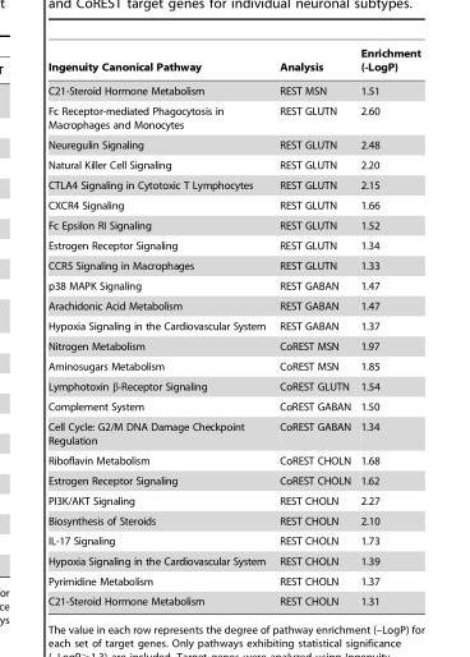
<table><thead><tr><td>Ingenuity Canonical Pathway</td><td>Analysis</td><td>Enrichment (-LogP)</td></tr></thead><tbody><tr><td>C21-Steroid Hormone Metabolism</td><td>REST MSN</td><td>1.51</td></tr><tr><td>Fc Receptor-mediated Phagocytosis in Macrophages and Monocytes</td><td>REST GLUTN</td><td>2.60</td></tr><tr><td>Neuregulin Signaling</td><td>REST GLUTN</td><td>2.48</td></tr><tr><td>Natural Killer Cell Signaling</td><td>REST GLUTN</td><td>2.20</td></tr><tr><td>CTLA4 Signaling in Cytotoxic T Lymphocytes</td><td>REST GLUTN</td><td>2.15</td></tr><tr><td>CXCR4 Signaling</td><td>REST GLUTN</td><td>1.66</td></tr><tr><td>Fc Epsilon RI Signaling</td><td>REST GLUTN</td><td>1.52</td></tr><tr><td>Estrogen Receptor Signaling</td><td>REST GLUTN</td><td>1.34</td></tr><tr><td>CCR5 Signaling in Macrophages</td><td>REST GLUTN</td><td>1.33</td></tr><tr><td>p38 MAPK Signaling</td><td>REST GABAN</td><td>1.47</td></tr><tr><td>Arachidonic Acid Metabolism</td><td>REST GABAN</td><td>1.47</td></tr><tr><td>Hypoxia Signaling in the Cardiovascular System</td><td>REST GABAN</td><td>1.37</td></tr><tr><td>Nitrogen Metabolism</td><td>CoREST MSN</td><td>1.97</td></tr><tr><td>Aminosugars Metabolism</td><td>CoREST MSN</td><td>1.85</td></tr><tr><td>Lymphotoxin β-Receptor Signaling</td><td>CoREST GLUTN</td><td>1.54</td></tr><tr><td>Complement System</td><td>CoREST GABAN</td><td>1.50</td></tr><tr><td>Cell Cycle: G2/M DNA Damage Checkpoint Regulation</td><td>CoREST GABAN</td><td>1.34</td></tr><tr><td>Riboflavin Metabolism</td><td>CoREST CHOLN</td><td>1.68</td></tr><tr><td>Estrogen Receptor Signaling</td><td>CoREST CHOLN</td><td>1.62</td></tr><tr><td>PI3K/AKT Signaling</td><td>REST CHOLN</td><td>2.27</td></tr><tr><td>Biosynthesis of Steroids</td><td>REST CHOLN</td><td>2.10</td></tr><tr><td>IL-17 Signaling</td><td>REST CHOLN</td><td>1.73</td></tr><tr><td>Hypoxia Signaling in the Cardiovascular System</td><td>REST CHOLN</td><td>1.39</td></tr><tr><td>Pyrimidine Metabolism</td><td>REST CHOLN</td><td>1.37</td></tr><tr><td>C21-Steroid Hormone Metabolism</td><td>REST CHOLN</td><td>1.31</td></tr></tbody></table>